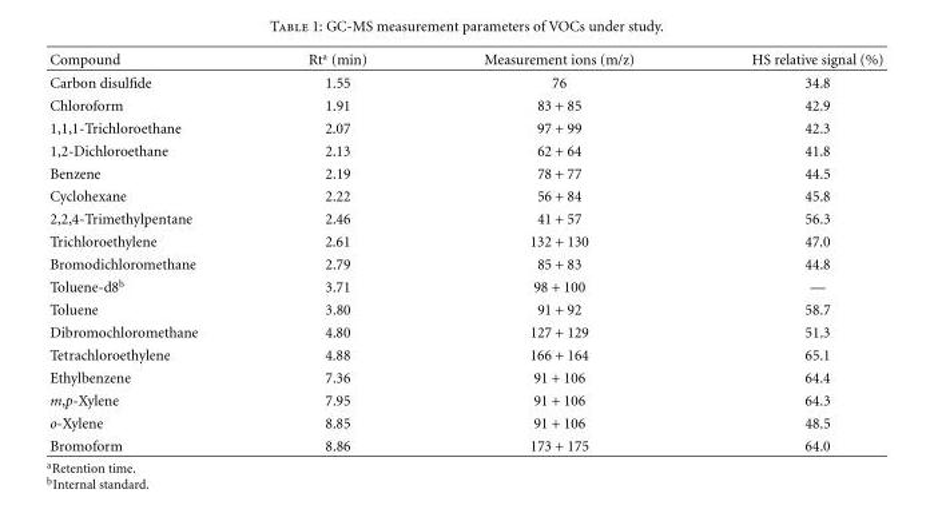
<table><thead><tr><td>Compound</td><td>Rt<sup>a</sup> (min)</td><td>Measurement ions (m/z)</td><td>HS relative signal (%)</td></tr></thead><tbody><tr><td>Carbon disulfide</td><td>1.55</td><td>76</td><td>34.8</td></tr><tr><td>Chloroform</td><td>1.91</td><td>83 + 85</td><td>42.9</td></tr><tr><td>1,1,1-Trichloroethane</td><td>2.07</td><td>97 + 99</td><td>42.3</td></tr><tr><td>1,2-Dichloroethane</td><td>2.13</td><td>62 + 64</td><td>41.8</td></tr><tr><td>Benzene</td><td>2.19</td><td>78 + 77</td><td>44.5</td></tr><tr><td>Cyclohexane</td><td>2.22</td><td>56 + 84</td><td>45.8</td></tr><tr><td>2,2,4-Trimethylpentane</td><td>2.46</td><td>41 + 57</td><td>56.3</td></tr><tr><td>Trichloroethylene</td><td>2.61</td><td>132 + 130</td><td>47.0</td></tr><tr><td>Bromodichloromethane</td><td>2.79</td><td>85 + 83</td><td>44.8</td></tr><tr><td>Toluene-d8<sup>b</sup></td><td>3.71</td><td>98 + 100</td><td>—</td></tr><tr><td>Toluene</td><td>3.80</td><td>91 + 92</td><td>58.7</td></tr><tr><td>Dibromochloromethane</td><td>4.80</td><td>127 + 129</td><td>51.3</td></tr><tr><td>Tetrachloroethylene</td><td>4.88</td><td>166 + 164</td><td>65.1</td></tr><tr><td>Ethylbenzene</td><td>7.36</td><td>91 + 106</td><td>64.4</td></tr><tr><td>m,p-Xylene</td><td>7.95</td><td>91 + 106</td><td>64.3</td></tr><tr><td>o-Xylene</td><td>8.85</td><td>91 + 106</td><td>48.5</td></tr><tr><td>Bromoform</td><td>8.86</td><td>173 + 175</td><td>64.0</td></tr></tbody></table>